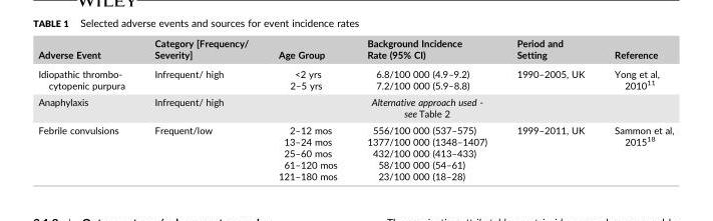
<table><thead><tr><td>Adverse Event</td><td>Category [Frequency/ Severity]</td><td>Age Group</td><td>Background Incidence Rate (95% CI)</td><td>Period and Setting</td><td>Reference</td></tr></thead><tbody><tr><td>Idiopathic thrombo‐ cytopenic purpura</td><td>Infrequent/ high</td><td>&lt;2 yrs 2–5 yrs</td><td>6.8/100 000 (4.9–9.2) 7.2/100 000 (5.9–8.8)</td><td>1990–2005, UK</td><td>Yong et al, 2010<sup>11</sup></td></tr><tr><td>Anaphylaxis</td><td>Infrequent/ high</td><td></td><td>Alternative approach used ‐ see Table 2</td><td></td><td></td></tr><tr><td rowspan="5">Febrile convulsions</td><td rowspan="5">Frequent/low</td><td>2–12 mos</td><td>556/100 000 (537–575)</td><td rowspan="5">1999–2011, UK</td><td rowspan="5">Sammon et al, 2015<sup>18</sup></td></tr><tr><td>13–24 mos</td><td>1377/100 000 (1348–1407)</td></tr><tr><td>25–60 mos</td><td>432/100 000 (413–433)</td></tr><tr><td>61–120 mos</td><td>58/100 000 (54–61)</td></tr><tr><td>121–180 mos</td><td>23/100 000 (18–28)</td></tr></tbody></table>